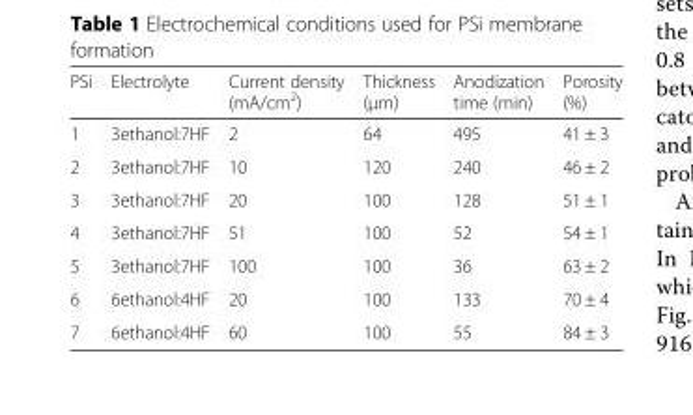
<table><thead><tr><td>PSi</td><td>Electrolyte</td><td>Current density (mA/cm<sup>2</sup>)</td><td>Thickness (μm)</td><td>Anodization time (min)</td><td>Porosity (%)</td></tr></thead><tbody><tr><td>1</td><td>3ethanol:7HF</td><td>2</td><td>64</td><td>495</td><td>41 ± 3</td></tr><tr><td>2</td><td>3ethanol:7HF</td><td>10</td><td>120</td><td>240</td><td>46 ± 2</td></tr><tr><td>3</td><td>3ethanol:7HF</td><td>20</td><td>100</td><td>128</td><td>51 ± 1</td></tr><tr><td>4</td><td>3ethanol:7HF</td><td>51</td><td>100</td><td>52</td><td>54 ± 1</td></tr><tr><td>5</td><td>3ethanol:7HF</td><td>100</td><td>100</td><td>36</td><td>63 ± 2</td></tr><tr><td>6</td><td>6ethanol:4HF</td><td>20</td><td>100</td><td>133</td><td>70 ± 4</td></tr><tr><td>7</td><td>6ethanol:4HF</td><td>60</td><td>100</td><td>55</td><td>84 ± 3</td></tr></tbody></table>